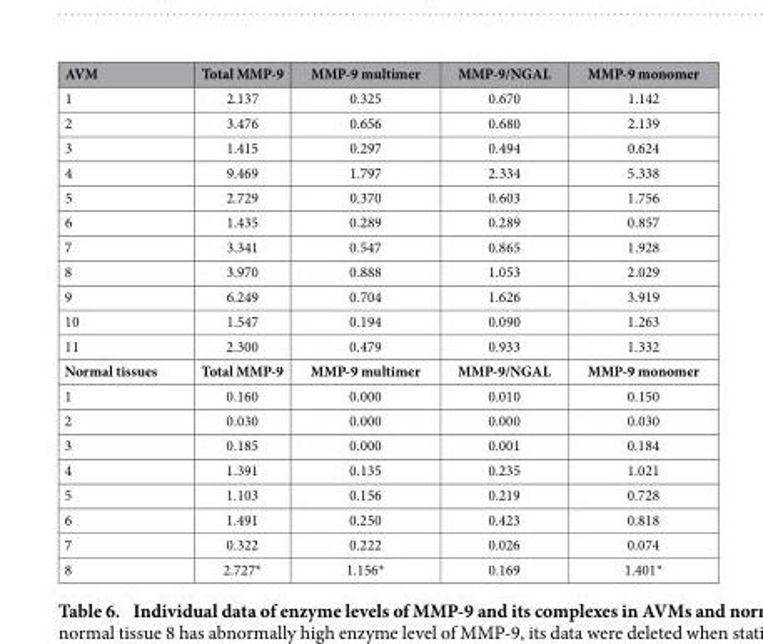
<table><thead><tr><td>AVM</td><td>Total MMP-9</td><td>MMP-9 multimer</td><td>MMP-9/NGAL</td><td>MMP-9 monomer</td></tr></thead><tbody><tr><td>1</td><td>2.137</td><td>0.325</td><td>0.670</td><td>1.142</td></tr><tr><td>2</td><td>3.476</td><td>0.656</td><td>0.680</td><td>2.139</td></tr><tr><td>3</td><td>1.415</td><td>0.297</td><td>0.494</td><td>0.624</td></tr><tr><td>4</td><td>9.469</td><td>1.797</td><td>2.334</td><td>5.338</td></tr><tr><td>5</td><td>2.729</td><td>0.370</td><td>0.603</td><td>1.756</td></tr><tr><td>6</td><td>1.435</td><td>0.289</td><td>0.289</td><td>0.857</td></tr><tr><td>7</td><td>3.341</td><td>0.547</td><td>0.865</td><td>1.928</td></tr><tr><td>8</td><td>3.970</td><td>0.888</td><td>1.053</td><td>2.029</td></tr><tr><td>9</td><td>6.249</td><td>0.704</td><td>1.626</td><td>3.919</td></tr><tr><td>10</td><td>1.547</td><td>0.194</td><td>0.090</td><td>1.263</td></tr><tr><td>11</td><td>2.300</td><td>0.479</td><td>0.933</td><td>1.332</td></tr><tr><td>Normal tissues</td><td>Total MMP-9</td><td>MMP-9 multimer</td><td>MMP-9/NGAL</td><td>MMP-9 monomer</td></tr><tr><td>1</td><td>0.160</td><td>0.000</td><td>0.010</td><td>0.150</td></tr><tr><td>2</td><td>0.030</td><td>0.000</td><td>0.000</td><td>0.030</td></tr><tr><td>3</td><td>0.185</td><td>0.000</td><td>0.001</td><td>0.184</td></tr><tr><td>4</td><td>1.391</td><td>0.135</td><td>0.235</td><td>1.021</td></tr><tr><td>5</td><td>1.103</td><td>0.156</td><td>0.219</td><td>0.728</td></tr><tr><td>6</td><td>1.491</td><td>0.250</td><td>0.423</td><td>0.818</td></tr><tr><td>7</td><td>0.322</td><td>0.222</td><td>0.026</td><td>0.074</td></tr><tr><td>8</td><td>2.727*</td><td>1.156*</td><td>0.169</td><td>1.401*</td></tr></tbody></table>